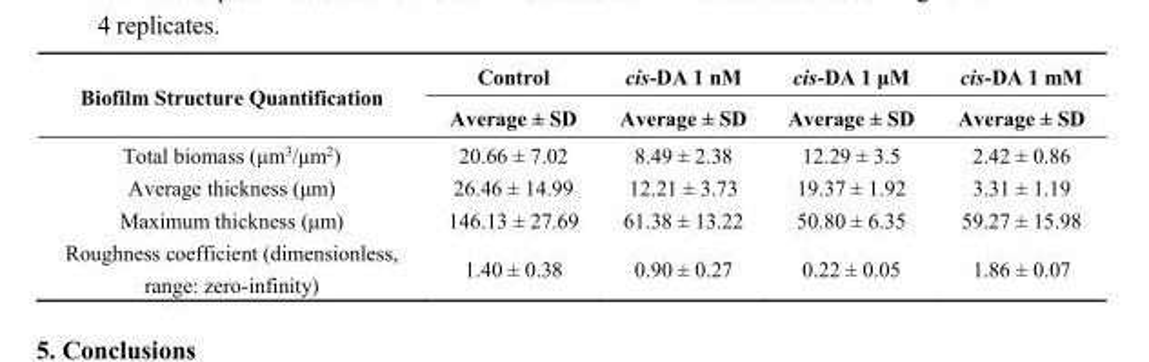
<table><thead><tr><td rowspan="2">Biofilm Structure Quantification</td><td rowspan="2">Control Average ± SD</td><td rowspan="2">cis-DA 1 nM Average ± SD</td><td rowspan="2">cis-DA 1 μM Average ± SD</td><td rowspan="2">cis-DA 1 mM Average ± SD</td></tr><tr></tr></thead><tbody><tr><td>Total biomass (μm<sup>3</sup>/μm<sup>2</sup>)</td><td>20.66 ± 7.02</td><td>8.49 ± 2.38</td><td>12.29 ± 3.5</td><td>2.42 ± 0.86</td></tr><tr><td>Average thickness (μm)</td><td>26.46 ± 14.99</td><td>12.21 ± 3.73</td><td>19.37 ± 1.92</td><td>3.31 ± 1.19</td></tr><tr><td>Maximum thickness (μm)</td><td>146.13 ± 27.69</td><td>61.38 ± 13.22</td><td>50.80 ± 6.35</td><td>59.27 ± 15.98</td></tr><tr><td>Roughness coefficient (dimensionless, range: zero-infinity)</td><td>1.40 ± 0.38</td><td>0.90 ± 0.27</td><td>0.22 ± 0.05</td><td>1.86 ± 0.07</td></tr></tbody></table>